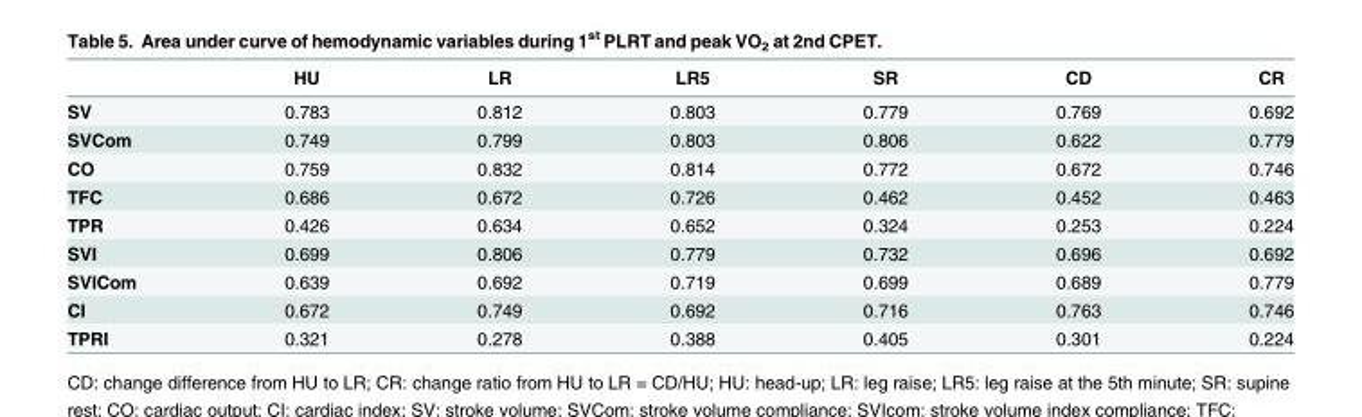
<table><thead><tr><td></td><td>HU</td><td>LR</td><td>LR5</td><td>SR</td><td>CD</td><td>CR</td></tr></thead><tbody><tr><td>SV</td><td>0.783</td><td>0.812</td><td>0.803</td><td>0.779</td><td>0.769</td><td>0.692</td></tr><tr><td>SVCom</td><td>0.749</td><td>0.799</td><td>0.803</td><td>0.806</td><td>0.622</td><td>0.779</td></tr><tr><td>CO</td><td>0.759</td><td>0.832</td><td>0.814</td><td>0.772</td><td>0.672</td><td>0.746</td></tr><tr><td>TFC</td><td>0.686</td><td>0.672</td><td>0.726</td><td>0.462</td><td>0.452</td><td>0.463</td></tr><tr><td>TPR</td><td>0.426</td><td>0.634</td><td>0.652</td><td>0.324</td><td>0.253</td><td>0.224</td></tr><tr><td>SVI</td><td>0.699</td><td>0.806</td><td>0.779</td><td>0.732</td><td>0.696</td><td>0.692</td></tr><tr><td>SVICom</td><td>0.639</td><td>0.692</td><td>0.719</td><td>0.699</td><td>0.689</td><td>0.779</td></tr><tr><td>CI</td><td>0.672</td><td>0.749</td><td>0.692</td><td>0.716</td><td>0.763</td><td>0.746</td></tr><tr><td>TPRI</td><td>0.321</td><td>0.278</td><td>0.388</td><td>0.405</td><td>0.301</td><td>0.224</td></tr></tbody></table>